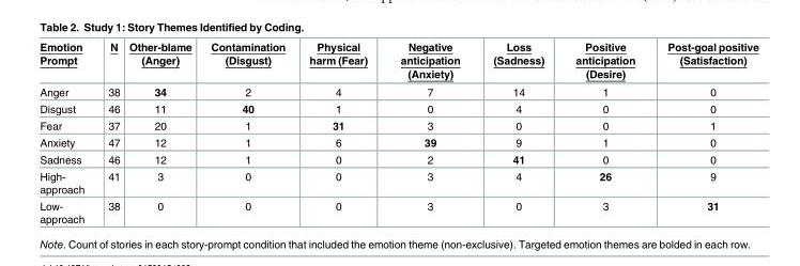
<table><thead><tr><td>Emotion Prompt</td><td>N</td><td>Other-blame (Anger)</td><td>Contamination (Disgust)</td><td>Physical harm (Fear)</td><td>Negative anticipation (Anxiety)</td><td>Loss (Sadness)</td><td>Positive anticipation (Desire)</td><td>Post-goal positive (Satisfaction)</td></tr></thead><tbody><tr><td>Anger</td><td>38</td><td>34</td><td>2</td><td>4</td><td>7</td><td>14</td><td>1</td><td>0</td></tr><tr><td>Disgust</td><td>46</td><td>11</td><td>40</td><td>1</td><td>0</td><td>4</td><td>0</td><td>0</td></tr><tr><td>Fear</td><td>37</td><td>20</td><td>1</td><td>31</td><td>3</td><td>0</td><td>0</td><td>1</td></tr><tr><td>Anxiety</td><td>47</td><td>12</td><td>1</td><td>6</td><td>39</td><td>9</td><td>1</td><td>0</td></tr><tr><td>Sadness</td><td>46</td><td>12</td><td>1</td><td>0</td><td>2</td><td>41</td><td>0</td><td>0</td></tr><tr><td>High- approach</td><td>41</td><td>3</td><td>0</td><td>0</td><td>3</td><td>4</td><td>26</td><td>9</td></tr><tr><td>Low- approach</td><td>38</td><td>0</td><td>0</td><td>0</td><td>3</td><td>0</td><td>3</td><td>31</td></tr></tbody></table>